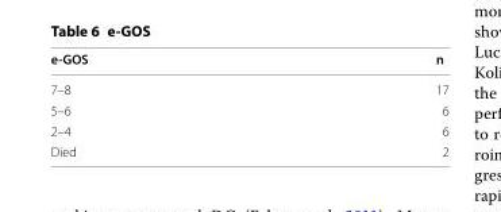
<table><thead><tr><td>e-GOS</td><td>n</td></tr></thead><tbody><tr><td>7–8</td><td>17</td></tr><tr><td>5–6</td><td>6</td></tr><tr><td>2–4</td><td>6</td></tr><tr><td>Died</td><td>2</td></tr></tbody></table>